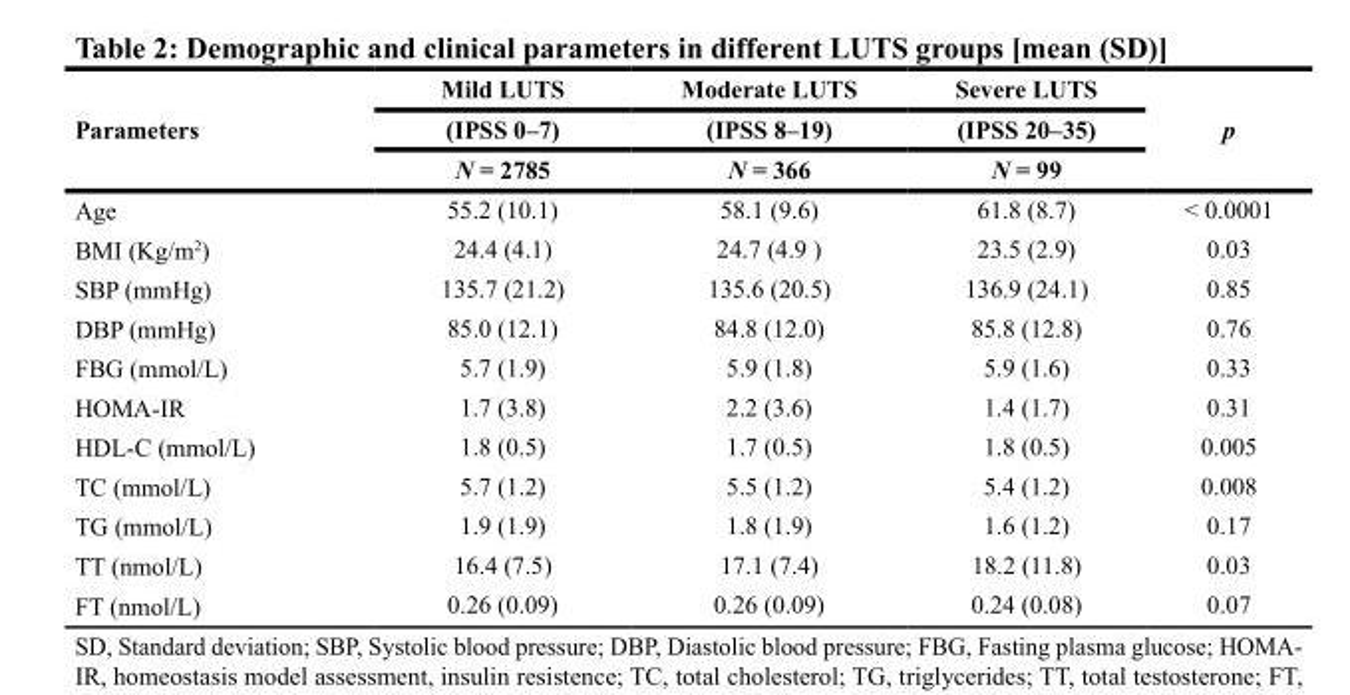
<table><thead><tr><td rowspan="3">Parameters</td><td rowspan="3">Mild LUTS (IPSS 0–7) N = 2785</td><td rowspan="3">Moderate LUTS (IPSS 8–19) N = 366</td><td rowspan="3">Severe LUTS (IPSS 20–35) N = 99</td><td rowspan="3">p</td></tr><tr></tr><tr></tr></thead><tbody><tr><td>Age</td><td>55.2 (10.1)</td><td>58.1 (9.6)</td><td>61.8 (8.7)</td><td>&lt; 0.0001</td></tr><tr><td>BMI (Kg/m<sup>2</sup>)</td><td>24.4 (4.1)</td><td>24.7 (4.9 )</td><td>23.5 (2.9)</td><td>0.03</td></tr><tr><td>SBP (mmHg)</td><td>135.7 (21.2)</td><td>135.6 (20.5)</td><td>136.9 (24.1)</td><td>0.85</td></tr><tr><td>DBP (mmHg)</td><td>85.0 (12.1)</td><td>84.8 (12.0)</td><td>85.8 (12.8)</td><td>0.76</td></tr><tr><td>FBG (mmol/L)</td><td>5.7 (1.9)</td><td>5.9 (1.8)</td><td>5.9 (1.6)</td><td>0.33</td></tr><tr><td>HOMA-IR</td><td>1.7 (3.8)</td><td>2.2 (3.6)</td><td>1.4 (1.7)</td><td>0.31</td></tr><tr><td>HDL-C (mmol/L)</td><td>1.8 (0.5)</td><td>1.7 (0.5)</td><td>1.8 (0.5)</td><td>0.005</td></tr><tr><td>TC (mmol/L)</td><td>5.7 (1.2)</td><td>5.5 (1.2)</td><td>5.4 (1.2)</td><td>0.008</td></tr><tr><td>TG (mmol/L)</td><td>1.9 (1.9)</td><td>1.8 (1.9)</td><td>1.6 (1.2)</td><td>0.17</td></tr><tr><td>TT (nmol/L)</td><td>16.4 (7.5)</td><td>17.1 (7.4)</td><td>18.2 (11.8)</td><td>0.03</td></tr><tr><td>FT (nmol/L)</td><td>0.26 (0.09)</td><td>0.26 (0.09)</td><td>0.24 (0.08)</td><td>0.07</td></tr></tbody></table>